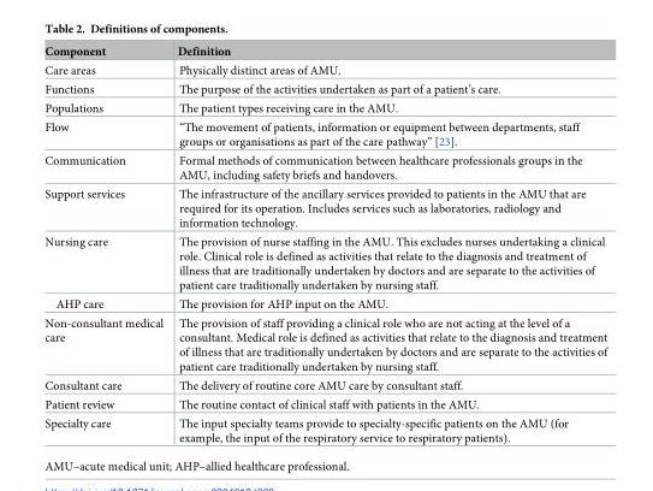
<table><thead><tr><td>Component</td><td>Definition</td></tr></thead><tbody><tr><td>Care areas</td><td>Physically distinct areas of AMU.</td></tr><tr><td>Functions</td><td>The purpose of the activities undertaken as part of a patient’s care.</td></tr><tr><td>Populations</td><td>The patient types receiving care in the AMU.</td></tr><tr><td>Flow</td><td>“The movement of patients, information or equipment between departments, staff groups or organisations as part of the care pathway” [23].</td></tr><tr><td>Communication</td><td>Formal methods of communication between healthcare professionals groups in the AMU, including safety briefs and handovers.</td></tr><tr><td>Support services</td><td>The infrastructure of the ancillary services provided to patients in the AMU that are required for its operation. Includes services such as laboratories, radiology and information technology.</td></tr><tr><td>Nursing care</td><td>The provision of nurse staffing in the AMU. This excludes nurses undertaking a clinical role. Clinical role is defined as activities that relate to the diagnosis and treatment of illness that are traditionally undertaken by doctors and are separate to the activities of patient care traditionally undertaken by nursing staff.</td></tr><tr><td>AHP care</td><td>The provision for AHP input on the AMU.</td></tr><tr><td>Non-consultant medical care</td><td>The provision of staff providing a clinical role who are not acting at the level of a consultant. Medical role is defined as activities that relate to the diagnosis and treatment of illness that are traditionally undertaken by doctors and are separate to the activities of patient care traditionally undertaken by nursing staff.</td></tr><tr><td>Consultant care</td><td>The delivery of routine core AMU care by consultant staff.</td></tr><tr><td>Patient review</td><td>The routine contact of clinical staff with patients in the AMU.</td></tr><tr><td>Specialty care</td><td>The input specialty teams provide to specialty-specific patients on the AMU (for example, the input of the respiratory service to respiratory patients).</td></tr></tbody></table>